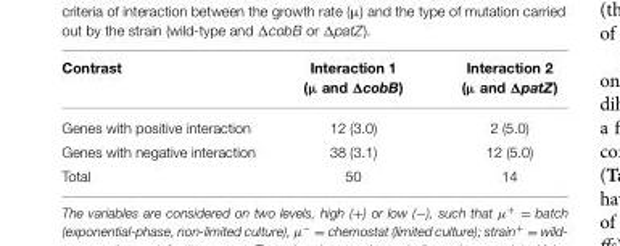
<table><thead><tr><td>Contrast</td><td>Interaction 1 (µ and ΔcobB)</td><td>Interaction 2 (µ and ΔpatZ)</td></tr></thead><tbody><tr><td>Genes with positive interaction</td><td>12 (3.0)</td><td>2 (5.0)</td></tr><tr><td>Genes with negative interaction</td><td>38 (3.1)</td><td>12 (5.0)</td></tr><tr><td>Total</td><td>50</td><td>14</td></tr></tbody></table>